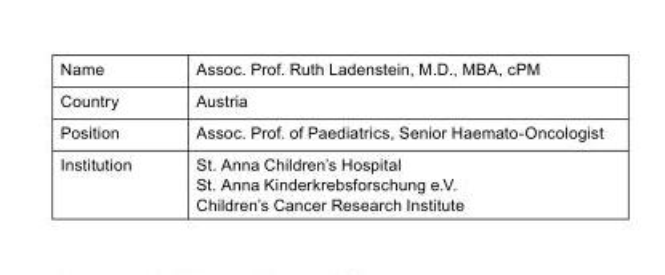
<table><tbody><tr><td>Name</td><td>Assoc. Prof. Ruth Ladenstein, M.D., MBA, cPM</td></tr><tr><td>Country</td><td>Austria</td></tr><tr><td>Position</td><td>Assoc. Prof. of Paediatrics, Senior Haemato-Oncologist</td></tr><tr><td>Institution</td><td>St. Anna Children’s Hospital St. Anna Kinderkrebsforschung e.V. Children’s Cancer Research Institute</td></tr></tbody></table>